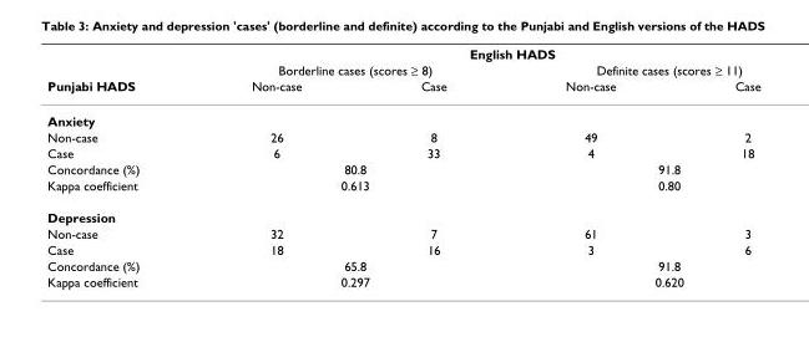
<table><thead><tr><td rowspan="3">Punjabi HADS</td><td colspan="4">English HADS</td></tr><tr><td colspan="2">Borderline cases (scores ≥ 8)</td><td colspan="2">Definite cases (scores ≥ 11)</td></tr><tr><td>Non-case</td><td>Case</td><td>Non-case</td><td>Case</td></tr></thead><tbody><tr><td colspan="5">Anxiety</td></tr><tr><td>Non-case</td><td>26</td><td>8</td><td>49</td><td>2</td></tr><tr><td>Case</td><td>6</td><td>33</td><td>4</td><td>18</td></tr><tr><td>Concordance (%)</td><td colspan="2">80.8</td><td colspan="2">91.8</td></tr><tr><td>Kappa coefficient</td><td colspan="2">0.613</td><td colspan="2">0.80</td></tr><tr><td colspan="5">Depression</td></tr><tr><td>Non-case</td><td>32</td><td>7</td><td>61</td><td>3</td></tr><tr><td>Case</td><td>18</td><td>16</td><td>3</td><td>6</td></tr><tr><td>Concordance (%)</td><td colspan="2">65.8</td><td colspan="2">91.8</td></tr><tr><td>Kappa coefficient</td><td colspan="2">0.297</td><td colspan="2">0.620</td></tr></tbody></table>